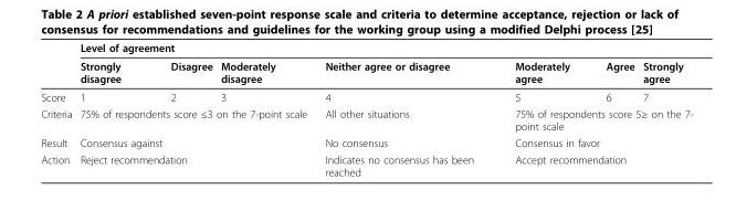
<table><thead><tr><td rowspan="2"></td><td colspan="7">Level of agreement</td></tr><tr><td>Strongly disagree</td><td>Disagree</td><td>Moderately disagree</td><td>Neither agree or disagree</td><td>Moderately agree</td><td>Agree</td><td>Strongly agree</td></tr></thead><tbody><tr><td>Score</td><td>1</td><td>2</td><td>3</td><td>4</td><td>5</td><td>6</td><td>7</td></tr><tr><td>Criteria</td><td colspan="3">75% of respondents score ≤3 on the 7-point scale</td><td>All other situations</td><td colspan="3">75% of respondents score 5≥ on the 7- point scale</td></tr><tr><td>Result</td><td colspan="3">Consensus against</td><td>No consensus</td><td colspan="3">Consensus in favor</td></tr><tr><td>Action</td><td colspan="3">Reject recommendation</td><td>Indicates no consensus has been reached</td><td colspan="3">Accept recommendation</td></tr></tbody></table>